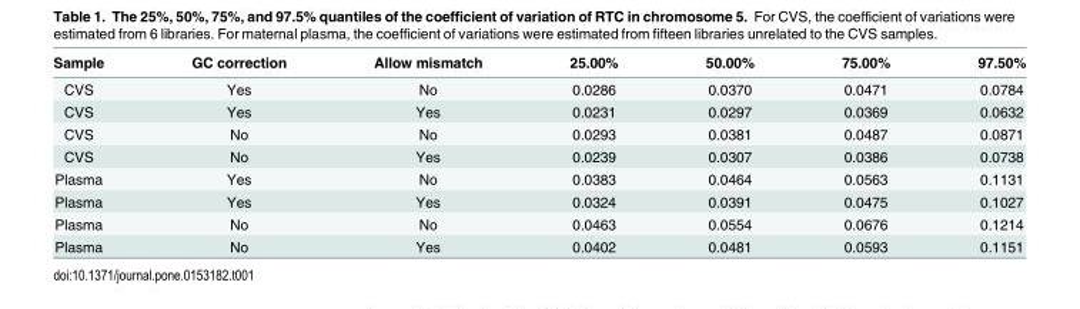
<table><thead><tr><td>Sample</td><td>GC correction</td><td>Allow mismatch</td><td>25.00%</td><td>50.00%</td><td>75.00%</td><td>97.50%</td></tr></thead><tbody><tr><td>CVS</td><td>Yes</td><td>No</td><td>0.0286</td><td>0.0370</td><td>0.0471</td><td>0.0784</td></tr><tr><td>CVS</td><td>Yes</td><td>Yes</td><td>0.0231</td><td>0.0297</td><td>0.0369</td><td>0.0632</td></tr><tr><td>CVS</td><td>No</td><td>No</td><td>0.0293</td><td>0.0381</td><td>0.0487</td><td>0.0871</td></tr><tr><td>CVS</td><td>No</td><td>Yes</td><td>0.0239</td><td>0.0307</td><td>0.0386</td><td>0.0738</td></tr><tr><td>Plasma</td><td>Yes</td><td>No</td><td>0.0383</td><td>0.0464</td><td>0.0563</td><td>0.1131</td></tr><tr><td>Plasma</td><td>Yes</td><td>Yes</td><td>0.0324</td><td>0.0391</td><td>0.0475</td><td>0.1027</td></tr><tr><td>Plasma</td><td>No</td><td>No</td><td>0.0463</td><td>0.0554</td><td>0.0676</td><td>0.1214</td></tr><tr><td>Plasma</td><td>No</td><td>Yes</td><td>0.0402</td><td>0.0481</td><td>0.0593</td><td>0.1151</td></tr></tbody></table>